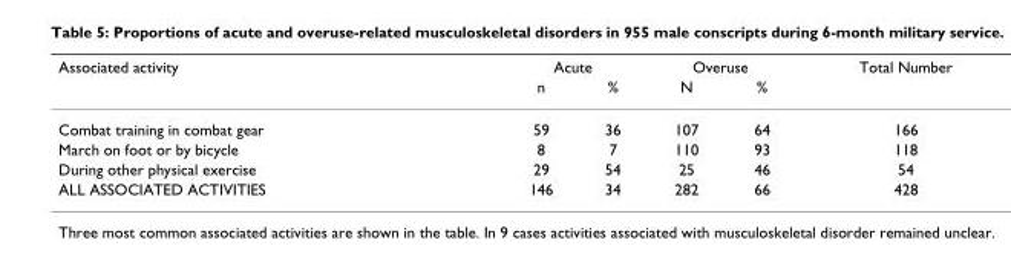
<table><thead><tr><td rowspan="2">Associated activity</td><td colspan="2">Acute</td><td colspan="2">Overuse</td><td rowspan="2">Total Number</td></tr><tr><td>n</td><td>%</td><td>N</td><td>%</td></tr></thead><tbody><tr><td>Combat training in combat gear</td><td>59</td><td>36</td><td>107</td><td>64</td><td>166</td></tr><tr><td>March on foot or by bicycle</td><td>8</td><td>7</td><td>110</td><td>93</td><td>118</td></tr><tr><td>During other physical exercise</td><td>29</td><td>54</td><td>25</td><td>46</td><td>54</td></tr><tr><td>ALL ASSOCIATED ACTIVITIES</td><td>146</td><td>34</td><td>282</td><td>66</td><td>428</td></tr></tbody></table>